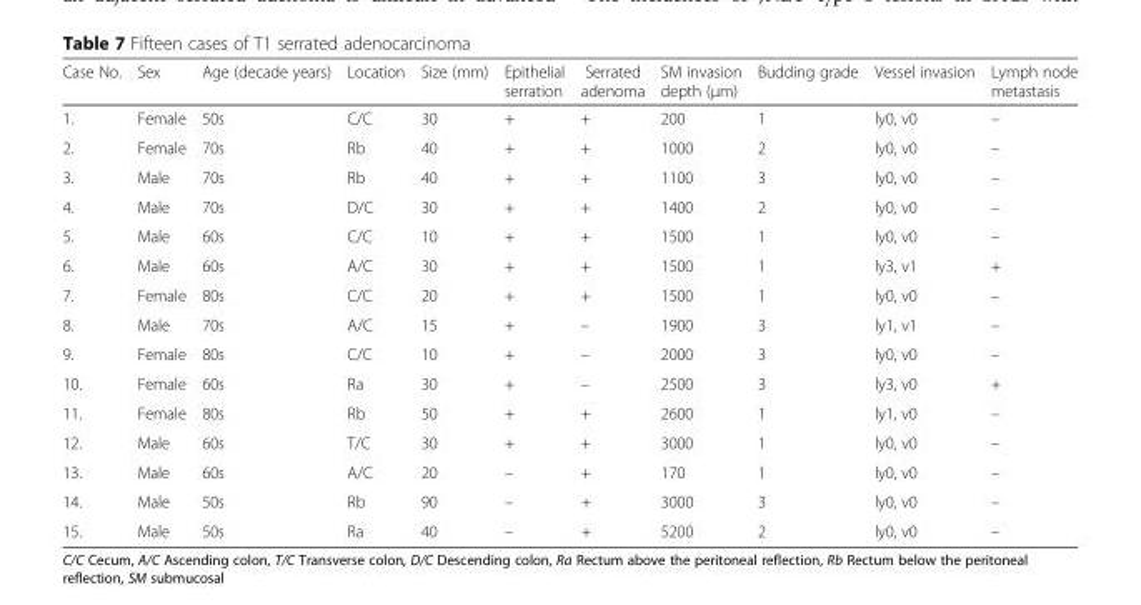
<table><thead><tr><td>Case No.</td><td>Sex</td><td>Age (decade years)</td><td>Location</td><td>Size (mm)</td><td>Epithelial serration</td><td>Serrated adenoma</td><td>SM invasion depth (μm)</td><td>Budding grade</td><td>Vessel invasion</td><td>Lymph node metastasis</td></tr></thead><tbody><tr><td>1.</td><td>Female</td><td>50s</td><td>C/C</td><td>30</td><td>+</td><td>+</td><td>200</td><td>1</td><td>ly0, v0</td><td>–</td></tr><tr><td>2.</td><td>Female</td><td>70s</td><td>Rb</td><td>40</td><td>+</td><td>+</td><td>1000</td><td>2</td><td>ly0, v0</td><td>–</td></tr><tr><td>3.</td><td>Male</td><td>70s</td><td>Rb</td><td>40</td><td>+</td><td>+</td><td>1100</td><td>3</td><td>ly0, v0</td><td>–</td></tr><tr><td>4.</td><td>Male</td><td>70s</td><td>D/C</td><td>30</td><td>+</td><td>+</td><td>1400</td><td>2</td><td>ly0, v0</td><td>–</td></tr><tr><td>5.</td><td>Male</td><td>60s</td><td>C/C</td><td>10</td><td>+</td><td>+</td><td>1500</td><td>1</td><td>ly0, v0</td><td>–</td></tr><tr><td>6.</td><td>Male</td><td>60s</td><td>A/C</td><td>30</td><td>+</td><td>+</td><td>1500</td><td>1</td><td>ly3, v1</td><td>+</td></tr><tr><td>7.</td><td>Female</td><td>80s</td><td>C/C</td><td>20</td><td>+</td><td>+</td><td>1500</td><td>1</td><td>ly0, v0</td><td>–</td></tr><tr><td>8.</td><td>Male</td><td>70s</td><td>A/C</td><td>15</td><td>+</td><td>–</td><td>1900</td><td>3</td><td>ly1, v1</td><td>–</td></tr><tr><td>9.</td><td>Female</td><td>80s</td><td>C/C</td><td>10</td><td>+</td><td>–</td><td>2000</td><td>3</td><td>ly0, v0</td><td>–</td></tr><tr><td>10.</td><td>Female</td><td>60s</td><td>Ra</td><td>30</td><td>+</td><td>–</td><td>2500</td><td>3</td><td>ly3, v0</td><td>+</td></tr><tr><td>11.</td><td>Female</td><td>80s</td><td>Rb</td><td>50</td><td>+</td><td>+</td><td>2600</td><td>1</td><td>ly1, v0</td><td>–</td></tr><tr><td>12.</td><td>Male</td><td>60s</td><td>T/C</td><td>30</td><td>+</td><td>+</td><td>3000</td><td>1</td><td>ly0, v0</td><td>–</td></tr><tr><td>13.</td><td>Male</td><td>60s</td><td>A/C</td><td>20</td><td>–</td><td>+</td><td>170</td><td>1</td><td>ly0, v0</td><td>–</td></tr><tr><td>14.</td><td>Male</td><td>50s</td><td>Rb</td><td>90</td><td>–</td><td>+</td><td>3000</td><td>3</td><td>ly0, v0</td><td>–</td></tr><tr><td>15.</td><td>Male</td><td>50s</td><td>Ra</td><td>40</td><td>–</td><td>+</td><td>5200</td><td>2</td><td>ly0, v0</td><td>–</td></tr></tbody></table>